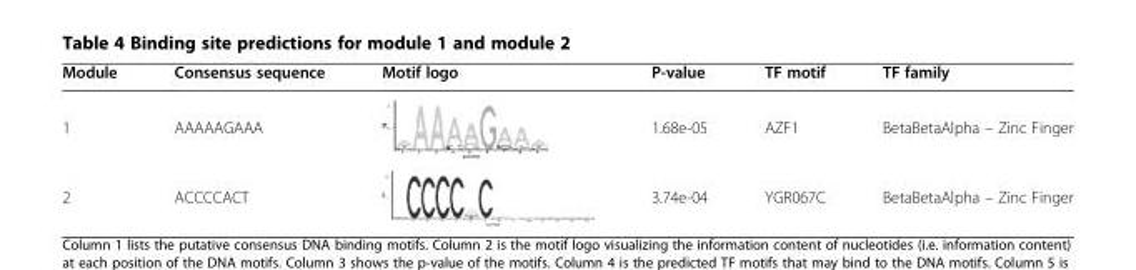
<table><thead><tr><td>Module</td><td>Consensus sequence</td><td>Motif logo</td><td>P-value</td><td>TF motif</td><td>TF family</td></tr></thead><tbody><tr><td>1</td><td>AAAAAGAAA</td><td></td><td>1.68e-05</td><td>AZF1</td><td>BetaBetaAlpha – Zinc Finger</td></tr><tr><td>2</td><td>ACCCCACT</td><td></td><td>3.74e-04</td><td>YGR067C</td><td>BetaBetaAlpha – Zinc Finger</td></tr></tbody></table>